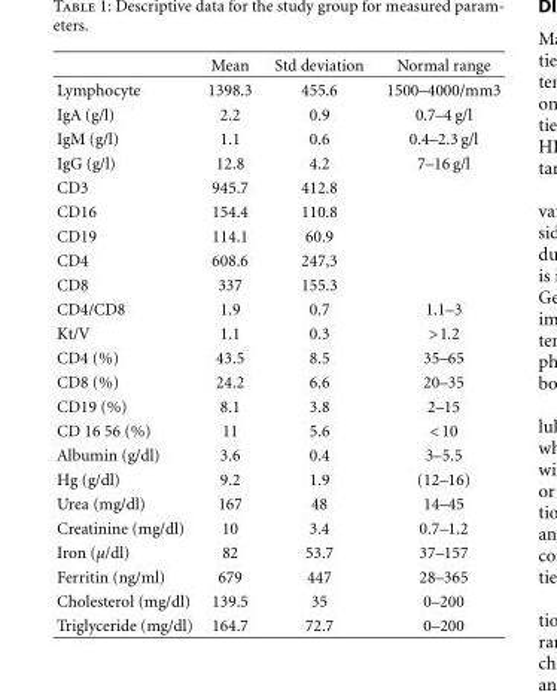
<table><thead><tr><td></td><td>Mean</td><td>Std deviation</td><td>Normal range</td></tr></thead><tbody><tr><td>Lymphocyte</td><td>1398.3</td><td>455.6</td><td>1500–4000/mm3</td></tr><tr><td>IgA (g/l)</td><td>2.2</td><td>0.9</td><td>0.7–4 g/l</td></tr><tr><td>IgM (g/l)</td><td>1.1</td><td>0.6</td><td>0.4–2.3 g/l</td></tr><tr><td>IgG (g/l)</td><td>12.8</td><td>4.2</td><td>7–16 g/l</td></tr><tr><td>CD3</td><td>945.7</td><td>412.8</td><td></td></tr><tr><td>CD16</td><td>154.4</td><td>110.8</td><td></td></tr><tr><td>CD19</td><td>114.1</td><td>60.9</td><td></td></tr><tr><td>CD4</td><td>608.6</td><td>247,3</td><td></td></tr><tr><td>CD8</td><td>337</td><td>155.3</td><td></td></tr><tr><td>CD4/CD8</td><td>1.9</td><td>0.7</td><td>1.1–3</td></tr><tr><td>Kt/V</td><td>1.1</td><td>0.3</td><td>&gt;1.2</td></tr><tr><td>CD4 (%)</td><td>43.5</td><td>8.5</td><td>35–65</td></tr><tr><td>CD8 (%)</td><td>24.2</td><td>6.6</td><td>20–35</td></tr><tr><td>CD19 (%)</td><td>8.1</td><td>3.8</td><td>2–15</td></tr><tr><td>CD 16 56 (%)</td><td>11</td><td>5.6</td><td>&lt;10</td></tr><tr><td>Albumin (g/dl)</td><td>3.6</td><td>0.4</td><td>3–5.5</td></tr><tr><td>Hg (g/dl)</td><td>9.2</td><td>1.9</td><td>(12–16)</td></tr><tr><td>Urea (mg/dl)</td><td>167</td><td>48</td><td>14–45</td></tr><tr><td>Creatinine (mg/dl)</td><td>10</td><td>3.4</td><td>0.7–1.2</td></tr><tr><td>Iron (µ/dl)</td><td>82</td><td>53.7</td><td>37–157</td></tr><tr><td>Ferritin (ng/ml)</td><td>679</td><td>447</td><td>28–365</td></tr><tr><td>Cholesterol (mg/dl)</td><td>139.5</td><td>35</td><td>0–200</td></tr><tr><td>Triglyceride (mg/dl)</td><td>164.7</td><td>72.7</td><td>0–200</td></tr></tbody></table>